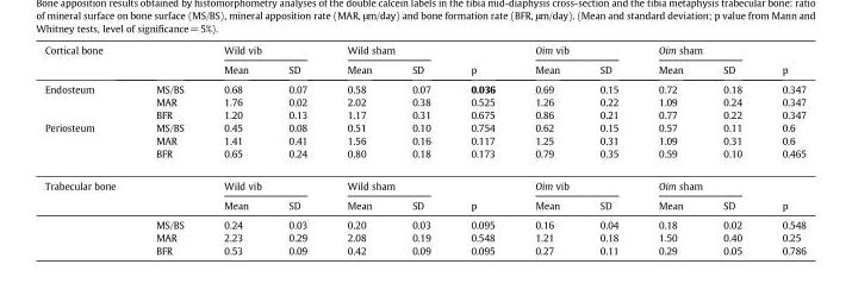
<table><thead><tr><td rowspan="2">Cortical bone</td><td rowspan="2"></td><td colspan="2">Wild vib</td><td colspan="2">Wild sham</td><td rowspan="2">p</td><td colspan="2">Oim vib</td><td colspan="2">Oim sham</td><td rowspan="2">p</td></tr><tr><td>Mean</td><td>SD</td><td>Mean</td><td>SD</td><td>Mean</td><td>SD</td><td>Mean</td><td>SD</td></tr></thead><tbody><tr><td rowspan="3">Endosteum</td><td>MS/BS</td><td>0.68</td><td>0.07</td><td>0.58</td><td>0.07</td><td>0.036</td><td>0.69</td><td>0.15</td><td>0.72</td><td>0.18</td><td>0.347</td></tr><tr><td>MAR</td><td>1.76</td><td>0.02</td><td>2.02</td><td>0.38</td><td>0.525</td><td>1.26</td><td>0.22</td><td>1.09</td><td>0.24</td><td>0.347</td></tr><tr><td>BFR</td><td>1.20</td><td>0.13</td><td>1.17</td><td>0.31</td><td>0.675</td><td>0.86</td><td>0.21</td><td>0.77</td><td>0.22</td><td>0.347</td></tr><tr><td rowspan="3">Periosteum</td><td>MS/BS</td><td>0.45</td><td>0.08</td><td>0.51</td><td>0.10</td><td>0.754</td><td>0.62</td><td>0.15</td><td>0.57</td><td>0.11</td><td>0.6</td></tr><tr><td>MAR</td><td>1.41</td><td>0.41</td><td>1.56</td><td>0.16</td><td>0.117</td><td>1.25</td><td>0.31</td><td>1.09</td><td>0.31</td><td>0.6</td></tr><tr><td>BFR</td><td>0.65</td><td>0.24</td><td>0.80</td><td>0.18</td><td>0.173</td><td>0.79</td><td>0.35</td><td>0.59</td><td>0.10</td><td>0.465</td></tr><tr><td rowspan="5">Trabecular bone</td><td></td><td colspan="2">Wild vib</td><td colspan="2">Wild sham</td><td></td><td colspan="2">Oim vib</td><td colspan="2">Oim sham</td><td></td></tr><tr><td></td><td>Mean</td><td>SD</td><td>Mean</td><td>SD</td><td>p</td><td>Mean</td><td>SD</td><td>Mean</td><td>SD</td><td>p</td></tr><tr><td>MS/BS</td><td>0.24</td><td>0.03</td><td>0.20</td><td>0.03</td><td>0.095</td><td>0.16</td><td>0.04</td><td>0.18</td><td>0.02</td><td>0.548</td></tr><tr><td>MAR</td><td>2.23</td><td>0.29</td><td>2.08</td><td>0.19</td><td>0.548</td><td>1.21</td><td>0.18</td><td>1.50</td><td>0.40</td><td>0.25</td></tr><tr><td>BFR</td><td>0.53</td><td>0.09</td><td>0.42</td><td>0.09</td><td>0.095</td><td>0.27</td><td>0.11</td><td>0.29</td><td>0.05</td><td>0.786</td></tr></tbody></table>